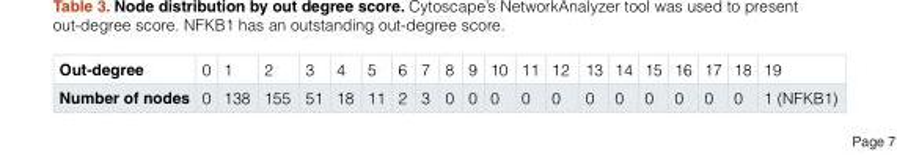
<table><tbody><tr><td>Out-degree</td><td>0</td><td>1</td><td>2</td><td>3</td><td>4</td><td>5</td><td>6</td><td>7</td><td>8</td><td>9</td><td>10</td><td>11</td><td>12</td><td>13</td><td>14</td><td>15</td><td>16</td><td>17</td><td>18</td><td>19</td></tr><tr><td>Number of nodes</td><td>0</td><td>138</td><td>155</td><td>51</td><td>18</td><td>11</td><td>2</td><td>3</td><td>0</td><td>0</td><td>0</td><td>0</td><td>0</td><td>0</td><td>0</td><td>0</td><td>0</td><td>0</td><td>0</td><td>1 (NFKB1)</td></tr></tbody></table>